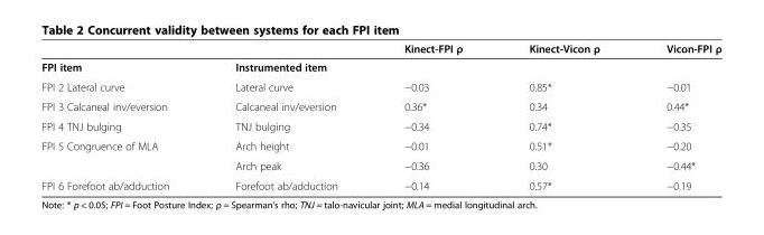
<table><thead><tr><td></td><td></td><td>Kinect-FPI ρ</td><td>Kinect-Vicon ρ</td><td>Vicon-FPI ρ</td></tr></thead><tbody><tr><td>FPI item</td><td>Instrumented item</td><td></td><td></td><td></td></tr><tr><td>FPI 2 Lateral curve</td><td>Lateral curve</td><td>−0.03</td><td>0.85*</td><td>−0.01</td></tr><tr><td>FPI 3 Calcaneal inv/eversion</td><td>Calcaneal inv/eversion</td><td>0.36*</td><td>0.34</td><td>0.44*</td></tr><tr><td>FPI 4 TNJ bulging</td><td>TNJ bulging</td><td>−0.34</td><td>0.74*</td><td>−0.35</td></tr><tr><td rowspan="2">FPI 5 Congruence of MLA</td><td>Arch height</td><td>−0.01</td><td>0.51*</td><td>−0.20</td></tr><tr><td>Arch peak</td><td>−0.36</td><td>0.30</td><td>−0.44*</td></tr><tr><td>FPI 6 Forefoot ab/adduction</td><td>Forefoot ab/adduction</td><td>−0.14</td><td>0.57*</td><td>−0.19</td></tr></tbody></table>